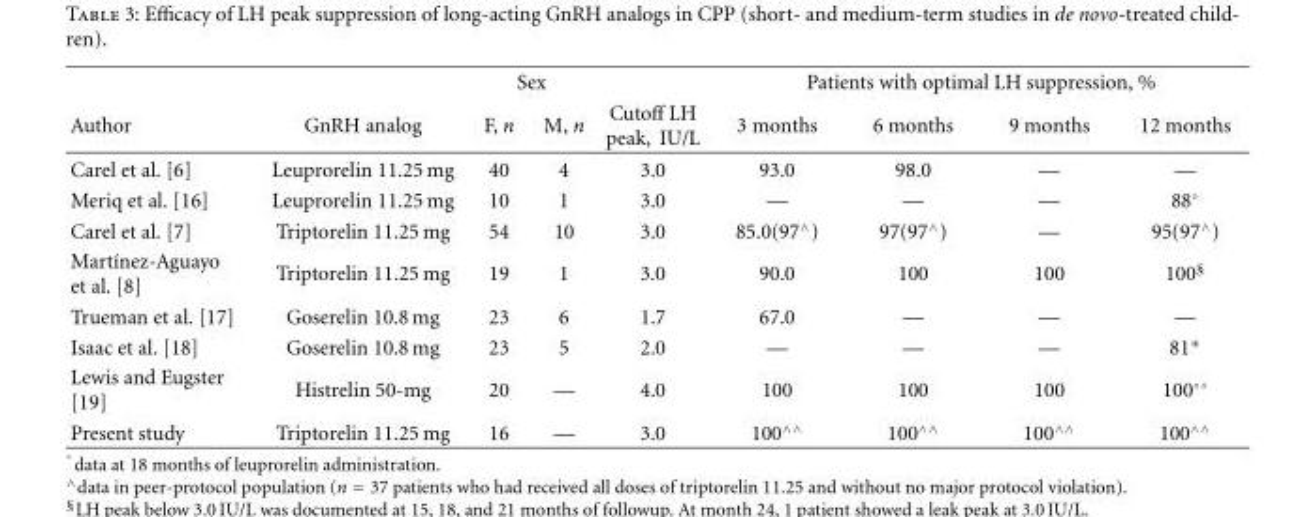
<table><thead><tr><td rowspan="2">Author</td><td rowspan="2">GnRH analog</td><td colspan="2">Sex</td><td rowspan="2">Cutoff LH peak, IU/L</td><td colspan="4">Patients with optimal LH suppression, %</td></tr><tr><td>F, n</td><td>M, n</td><td>3 months</td><td>6 months</td><td>9 months</td><td>12 months</td></tr></thead><tbody><tr><td>Carel et al. [6]</td><td>Leuprorelin 11.25 mg</td><td>40</td><td>4</td><td>3.0</td><td>93.0</td><td>98.0</td><td>—</td><td>—</td></tr><tr><td>Meriq et al. [16]</td><td>Leuprorelin 11.25 mg</td><td>10</td><td>1</td><td>3.0</td><td>—</td><td>—</td><td>—</td><td>88◦</td></tr><tr><td>Carel et al. [7]</td><td>Triptorelin 11.25 mg</td><td>54</td><td>10</td><td>3.0</td><td>85.0(97<sup>∧</sup>)</td><td>97(97<sup>∧</sup>)</td><td>—</td><td>95(97<sup>∧</sup>)</td></tr><tr><td>Mart´ınez-Aguayo et al. [8]</td><td>Triptorelin 11.25 mg</td><td>19</td><td>1</td><td>3.0</td><td>90.0</td><td>100</td><td>100</td><td>100<sup>§</sup></td></tr><tr><td>Trueman et al. [17]</td><td>Goserelin 10.8 mg</td><td>23</td><td>6</td><td>1.7</td><td>67.0</td><td>—</td><td>—</td><td>—</td></tr><tr><td>Isaac et al. [18]</td><td>Goserelin 10.8 mg</td><td>23</td><td>5</td><td>2.0</td><td>—</td><td>—</td><td>—</td><td>81∗</td></tr><tr><td>Lewis and Eugster [19]</td><td>Histrelin 50-mg</td><td>20</td><td>—</td><td>4.0</td><td>100</td><td>100</td><td>100</td><td>100◦◦</td></tr><tr><td>Present study</td><td>Triptorelin 11.25 mg</td><td>16</td><td>—</td><td>3.0</td><td>100<sup>∧∧</sup></td><td>100<sup>∧∧</sup></td><td>100<sup>∧∧</sup></td><td>100<sup>∧∧</sup></td></tr></tbody></table>